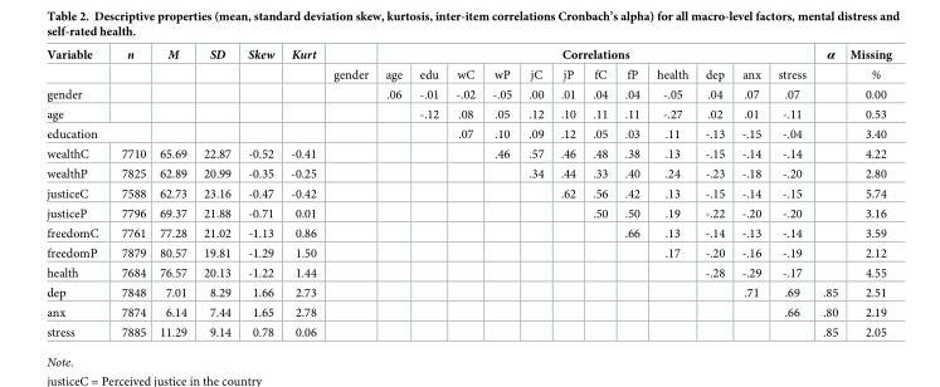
<table><thead><tr><td rowspan="2">Variable</td><td rowspan="2">n</td><td rowspan="2">M</td><td rowspan="2">SD</td><td rowspan="2">Skew</td><td rowspan="2">Kurt</td><td rowspan="2">gender</td><td colspan="12">Correlations</td><td rowspan="2">α</td><td rowspan="2">Missing %</td></tr><tr><td>age</td><td>edu</td><td>wC</td><td>wP</td><td>jC</td><td>jP</td><td>fC</td><td>fP</td><td>health</td><td>dep</td><td>anx</td><td>stress</td></tr></thead><tbody><tr><td>gender</td><td></td><td></td><td></td><td></td><td></td><td></td><td>.06</td><td>-.01</td><td>-.02</td><td>-.05</td><td>.00</td><td>.01</td><td>.04</td><td>.04</td><td>-.05</td><td>.04</td><td>.07</td><td>.07</td><td></td><td>0.00</td></tr><tr><td>age</td><td></td><td></td><td></td><td></td><td></td><td></td><td></td><td>-.12</td><td>.08</td><td>.05</td><td>.12</td><td>.10</td><td>.11</td><td>.11</td><td>-.27</td><td>.02</td><td>.01</td><td>-.11</td><td></td><td>0.53</td></tr><tr><td colspan="2">education</td><td></td><td></td><td></td><td></td><td></td><td></td><td></td><td>.07</td><td>.10</td><td>.09</td><td>.12</td><td>.05</td><td>.03</td><td>.11</td><td>-.13</td><td>-.15</td><td>-.04</td><td></td><td>3.40</td></tr><tr><td>wealthC</td><td>7710</td><td>65.69</td><td>22.87</td><td>-0.52</td><td>-0.41</td><td></td><td></td><td></td><td></td><td>.46</td><td>.57</td><td>.46</td><td>.48</td><td>.38</td><td>.13</td><td>-.15</td><td>-.14</td><td>-.14</td><td></td><td>4.22</td></tr><tr><td>wealthP</td><td>7825</td><td>62.89</td><td>20.99</td><td>-0.35</td><td>-0.25</td><td></td><td></td><td></td><td></td><td></td><td>.34</td><td>.44</td><td>.33</td><td>.40</td><td>.24</td><td>-.23</td><td>-.18</td><td>-.20</td><td></td><td>2.80</td></tr><tr><td>justiceC</td><td>7588</td><td>62.73</td><td>23.16</td><td>-0.47</td><td>-0.42</td><td></td><td></td><td></td><td></td><td></td><td></td><td>.62</td><td>.56</td><td>.42</td><td>.13</td><td>-.15</td><td>-.14</td><td>-.15</td><td></td><td>5.74</td></tr><tr><td>justiceP</td><td>7796</td><td>69.37</td><td>21.88</td><td>-0.71</td><td>0.01</td><td></td><td></td><td></td><td></td><td></td><td></td><td></td><td>.50</td><td>.50</td><td>.19</td><td>-.22</td><td>-.20</td><td>-.20</td><td></td><td>3.16</td></tr><tr><td>freedomC</td><td>7761</td><td>77.28</td><td>21.02</td><td>-1.13</td><td>0.86</td><td></td><td></td><td></td><td></td><td></td><td></td><td></td><td></td><td>.66</td><td>.13</td><td>-.14</td><td>-.13</td><td>-.14</td><td></td><td>3.59</td></tr><tr><td>freedomP</td><td>7879</td><td>80.57</td><td>19.81</td><td>-1.29</td><td>1.50</td><td></td><td></td><td></td><td></td><td></td><td></td><td></td><td></td><td></td><td>.17</td><td>-.20</td><td>-.16</td><td>-.19</td><td></td><td>2.12</td></tr><tr><td>health</td><td>7684</td><td>76.57</td><td>20.13</td><td>-1.22</td><td>1.44</td><td></td><td></td><td></td><td></td><td></td><td></td><td></td><td></td><td></td><td></td><td>-.28</td><td>-.29</td><td>-.17</td><td></td><td>4.55</td></tr><tr><td>dep</td><td>7848</td><td>7.01</td><td>8.29</td><td>1.66</td><td>2.73</td><td></td><td></td><td></td><td></td><td></td><td></td><td></td><td></td><td></td><td></td><td></td><td>.71</td><td>.69</td><td>.85</td><td>2.51</td></tr><tr><td>anx</td><td>7874</td><td>6.14</td><td>7.44</td><td>1.65</td><td>2.78</td><td></td><td></td><td></td><td></td><td></td><td></td><td></td><td></td><td></td><td></td><td></td><td></td><td>.66</td><td>.80</td><td>2.19</td></tr><tr><td>stress</td><td>7885</td><td>11.29</td><td>9.14</td><td>0.78</td><td>0.06</td><td></td><td></td><td></td><td></td><td></td><td></td><td></td><td></td><td></td><td></td><td></td><td></td><td></td><td>.85</td><td>2.05</td></tr></tbody></table>